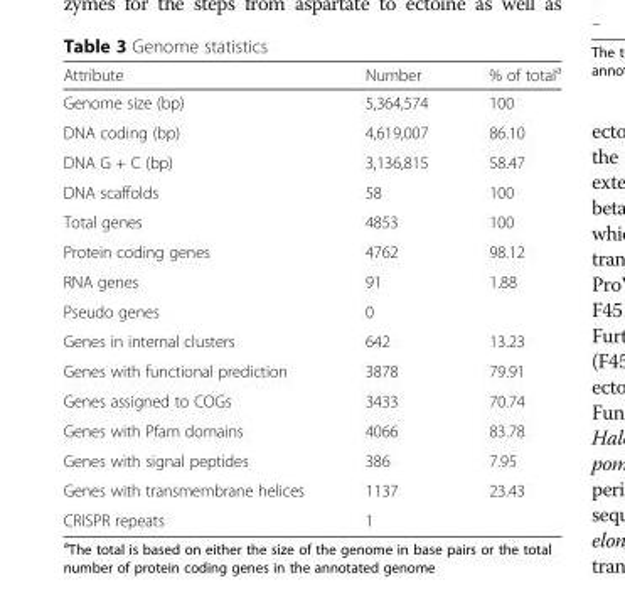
<table><thead><tr><td>Attribute</td><td>Number</td><td>% of total<sup>a</sup></td></tr></thead><tbody><tr><td>Genome size (bp)</td><td>5,364,574</td><td>100</td></tr><tr><td>DNA coding (bp)</td><td>4,619,007</td><td>86.10</td></tr><tr><td>DNA G + C (bp)</td><td>3,136,815</td><td>58.47</td></tr><tr><td>DNA scaffolds</td><td>58</td><td>100</td></tr><tr><td>Total genes</td><td>4853</td><td>100</td></tr><tr><td>Protein coding genes</td><td>4762</td><td>98.12</td></tr><tr><td>RNA genes</td><td>91</td><td>1.88</td></tr><tr><td>Pseudo genes</td><td>0</td><td></td></tr><tr><td>Genes in internal clusters</td><td>642</td><td>13.23</td></tr><tr><td>Genes with functional prediction</td><td>3878</td><td>79.91</td></tr><tr><td>Genes assigned to COGs</td><td>3433</td><td>70.74</td></tr><tr><td>Genes with Pfam domains</td><td>4066</td><td>83.78</td></tr><tr><td>Genes with signal peptides</td><td>386</td><td>7.95</td></tr><tr><td>Genes with transmembrane helices</td><td>1137</td><td>23.43</td></tr><tr><td>CRISPR repeats</td><td>1</td><td></td></tr></tbody></table>